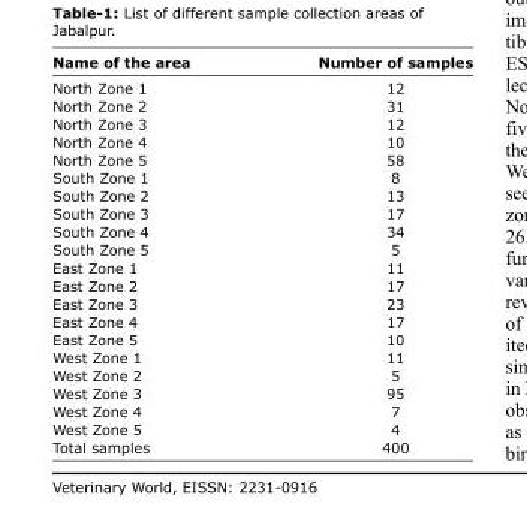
<table><thead><tr><td>Name of the area</td><td>Number of samples</td></tr></thead><tbody><tr><td>North Zone 1</td><td>12</td></tr><tr><td>North Zone 2</td><td>31</td></tr><tr><td>North Zone 3</td><td>12</td></tr><tr><td>North Zone 4</td><td>10</td></tr><tr><td>North Zone 5</td><td>58</td></tr><tr><td>South Zone 1</td><td>8</td></tr><tr><td>South Zone 2</td><td>13</td></tr><tr><td>South Zone 3</td><td>17</td></tr><tr><td>South Zone 4</td><td>34</td></tr><tr><td>South Zone 5</td><td>5</td></tr><tr><td>East Zone 1</td><td>11</td></tr><tr><td>East Zone 2</td><td>17</td></tr><tr><td>East Zone 3</td><td>23</td></tr><tr><td>East Zone 4</td><td>17</td></tr><tr><td>East Zone 5</td><td>10</td></tr><tr><td>West Zone 1</td><td>11</td></tr><tr><td>West Zone 2</td><td>5</td></tr><tr><td>West Zone 3</td><td>95</td></tr><tr><td>West Zone 4</td><td>7</td></tr><tr><td>West Zone 5</td><td>4</td></tr><tr><td>Total samples</td><td>400</td></tr></tbody></table>